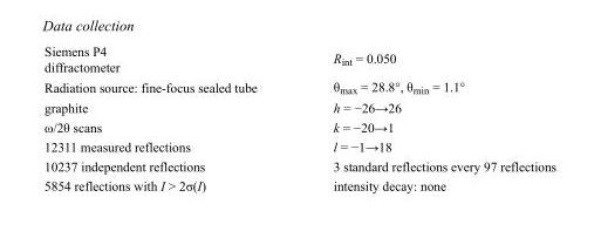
<table><tbody><tr><td>Siemens P4 diffractometer</td><td>R<sub>int</sub> = 0.050</td></tr><tr><td>Radiation source: fine-focus sealed tube</td><td>θ<sub>max</sub> = 28.8°, θ<sub>min</sub> = 1.1°</td></tr><tr><td>graphite</td><td>h = −26→26</td></tr><tr><td>ω/2θ scans</td><td>k = −20→1</td></tr><tr><td>12311 measured reflections</td><td>l = −1→18</td></tr><tr><td>10237 independent reflections</td><td>3 standard reflections every 97 reflections</td></tr><tr><td>5854 reflections with I &gt; 2σ(I)</td><td>intensity decay: none</td></tr></tbody></table>